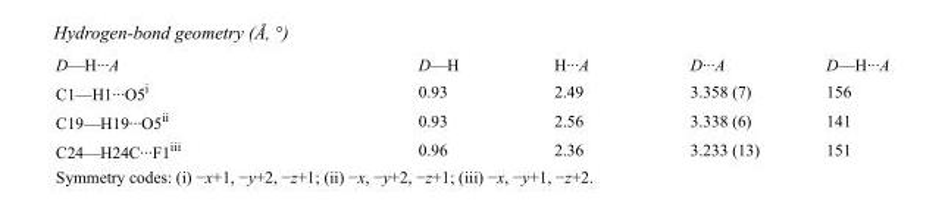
<table><tbody><tr><td>D—H···A</td><td>D—H</td><td>H···A</td><td>D···A</td><td>D—H···A</td></tr><tr><td>C1—H1···O5<sup>i</sup></td><td>0.93</td><td>2.49</td><td>3.358 (7)</td><td>156</td></tr><tr><td>C19—H19···O5<sup>ii</sup></td><td>0.93</td><td>2.56</td><td>3.338 (6)</td><td>141</td></tr><tr><td>C24—H24C···F1<sup>iii</sup></td><td>0.96</td><td>2.36</td><td>3.233 (13)</td><td>151</td></tr></tbody></table>